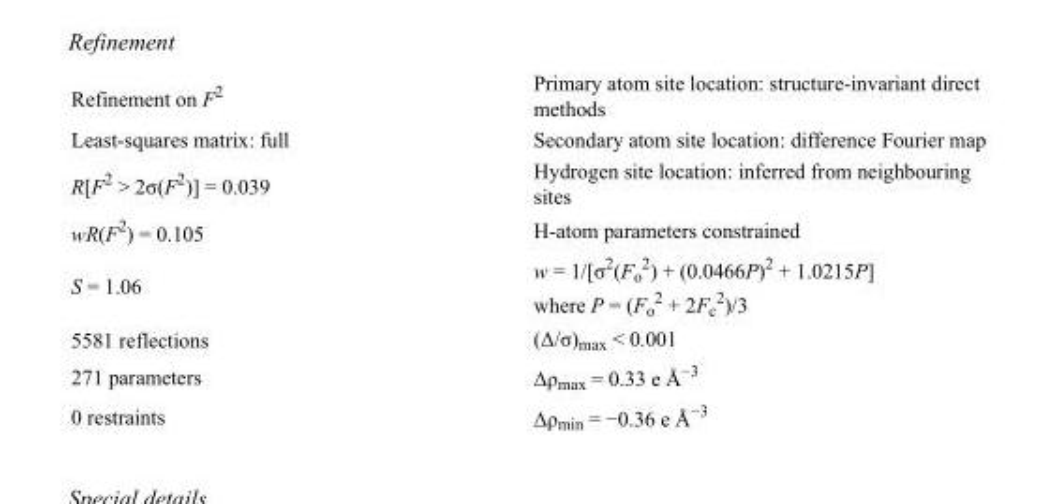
<table><tbody><tr><td>Refinement on F<sup>2</sup></td><td>Primary atom site location: structure-invariant direct methods</td></tr><tr><td>Least-squares matrix: full</td><td>Secondary atom site location: difference Fourier map</td></tr><tr><td>R[F<sup>2</sup> &gt; 2σ(F<sup>2</sup>)] = 0.039</td><td>Hydrogen site location: inferred from neighbouring sites</td></tr><tr><td>wR(F<sup>2</sup>) = 0.105</td><td>H-atom parameters constrained</td></tr><tr><td>S = 1.06</td><td>w = 1/[σ<sup>2</sup>(F<sub>o</sub> <sup>2</sup>) + (0.0466P)<sup>2</sup> + 1.0215P] where P = (F<sub>o</sub> <sup>2</sup> + 2F<sub>c</sub> <sup>2</sup>)/3</td></tr><tr><td>5581 reflections</td><td>(Δ/σ)<sub>max</sub> &lt; 0.001</td></tr><tr><td>271 parameters</td><td>Δρ<sub>max</sub> = 0.33 e Å<sup>−3</sup></td></tr><tr><td>0 restraints</td><td>Δρ<sub>min</sub> = −0.36 e Å<sup>−3</sup></td></tr></tbody></table>